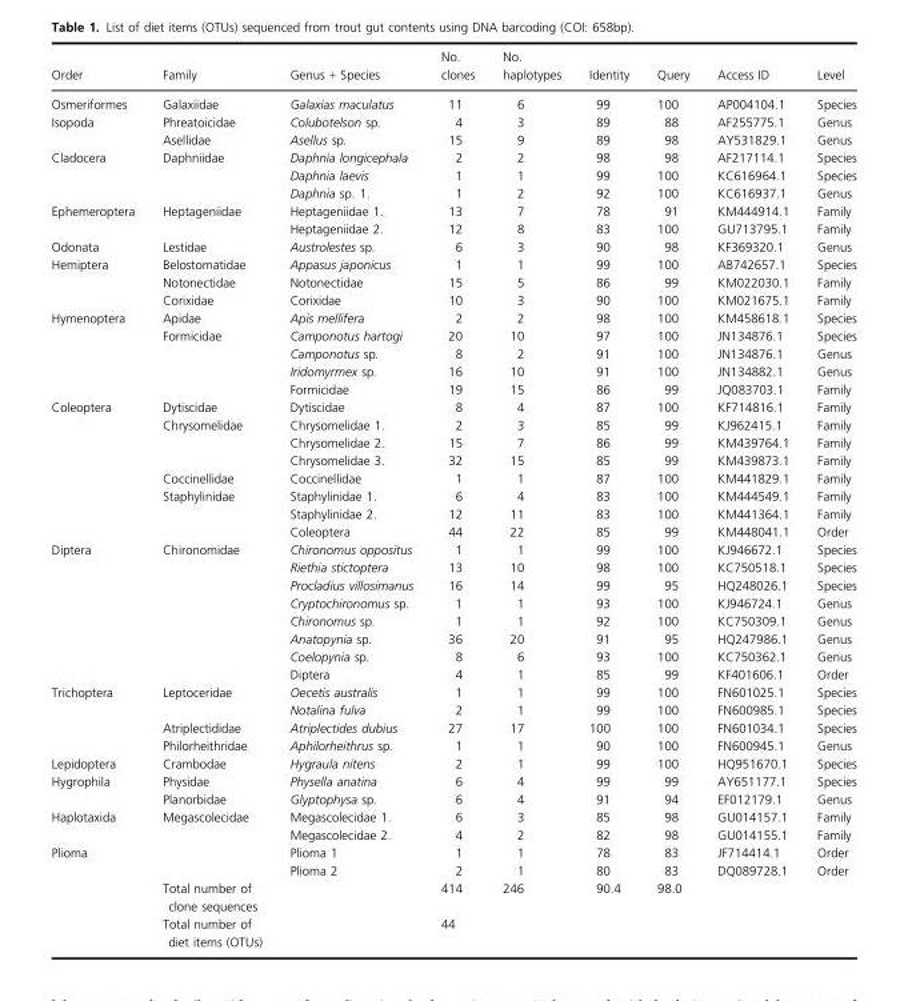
<table><thead><tr><td>Order</td><td>Family</td><td>Genus + Species</td><td>No. clones</td><td>No. haplotypes</td><td>Identity</td><td>Query</td><td>Access ID</td><td>Level</td></tr></thead><tbody><tr><td>Osmeriformes</td><td>Galaxiidae</td><td>Galaxias maculatus</td><td>11</td><td>6</td><td>99</td><td>100</td><td>AP004104.1</td><td>Species</td></tr><tr><td rowspan="2">Isopoda</td><td>Phreatoicidae</td><td>Colubotelson sp.</td><td>4</td><td>3</td><td>89</td><td>88</td><td>AF255775.1</td><td>Genus</td></tr><tr><td>Asellidae</td><td>Asellus sp.</td><td>15</td><td>9</td><td>89</td><td>98</td><td>AY531829.1</td><td>Genus</td></tr><tr><td rowspan="3">Cladocera</td><td rowspan="3">Daphniidae</td><td>Daphnia longicephala</td><td>2</td><td>2</td><td>98</td><td>98</td><td>AF217114.1</td><td>Species</td></tr><tr><td>Daphnia laevis</td><td>1</td><td>1</td><td>99</td><td>100</td><td>KC616964.1</td><td>Species</td></tr><tr><td>Daphnia sp. 1.</td><td>1</td><td>2</td><td>92</td><td>100</td><td>KC616937.1</td><td>Genus</td></tr><tr><td rowspan="2">Ephemeroptera</td><td rowspan="2">Heptageniidae</td><td>Heptageniidae 1.</td><td>13</td><td>7</td><td>78</td><td>91</td><td>KM444914.1</td><td>Family</td></tr><tr><td>Heptageniidae 2.</td><td>12</td><td>8</td><td>83</td><td>100</td><td>GU713795.1</td><td>Family</td></tr><tr><td>Odonata</td><td>Lestidae</td><td>Austrolestes sp.</td><td>6</td><td>3</td><td>90</td><td>98</td><td>KF369320.1</td><td>Genus</td></tr><tr><td rowspan="3">Hemiptera</td><td>Belostomatidae</td><td>Appasus japonicus</td><td>1</td><td>1</td><td>99</td><td>100</td><td>AB742657.1</td><td>Species</td></tr><tr><td>Notonectidae</td><td>Notonectidae</td><td>15</td><td>5</td><td>86</td><td>99</td><td>KM022030.1</td><td>Family</td></tr><tr><td>Corixidae</td><td>Corixidae</td><td>10</td><td>3</td><td>90</td><td>100</td><td>KM021675.1</td><td>Family</td></tr><tr><td rowspan="5">Hymenoptera</td><td>Apidae</td><td>Apis mellifera</td><td>2</td><td>2</td><td>98</td><td>100</td><td>KM458618.1</td><td>Species</td></tr><tr><td rowspan="4">Formicidae</td><td>Camponotus hartogi</td><td>20</td><td>10</td><td>97</td><td>100</td><td>JN134876.1</td><td>Species</td></tr><tr><td>Camponotus sp.</td><td>8</td><td>2</td><td>91</td><td>100</td><td>JN134876.1</td><td>Genus</td></tr><tr><td>Iridomyrmex sp.</td><td>16</td><td>10</td><td>91</td><td>100</td><td>JN134882.1</td><td>Genus</td></tr><tr><td>Formicidae</td><td>19</td><td>15</td><td>86</td><td>99</td><td>JQ083703.1</td><td>Family</td></tr><tr><td rowspan="8">Coleoptera</td><td>Dytiscidae</td><td>Dytiscidae</td><td>8</td><td>4</td><td>87</td><td>100</td><td>KF714816.1</td><td>Family</td></tr><tr><td rowspan="3">Chrysomelidae</td><td>Chrysomelidae 1.</td><td>2</td><td>3</td><td>85</td><td>99</td><td>KJ962415.1</td><td>Family</td></tr><tr><td>Chrysomelidae 2.</td><td>15</td><td>7</td><td>86</td><td>99</td><td>KM439764.1</td><td>Family</td></tr><tr><td>Chrysomelidae 3.</td><td>32</td><td>15</td><td>85</td><td>99</td><td>KM439873.1</td><td>Family</td></tr><tr><td>Coccinellidae</td><td>Coccinellidae</td><td>1</td><td>1</td><td>87</td><td>100</td><td>KM441829.1</td><td>Family</td></tr><tr><td rowspan="3">Staphylinidae</td><td>Staphylinidae 1.</td><td>6</td><td>4</td><td>83</td><td>100</td><td>KM444549.1</td><td>Family</td></tr><tr><td>Staphylinidae 2.</td><td>12</td><td>11</td><td>83</td><td>100</td><td>KM441364.1</td><td>Family</td></tr><tr><td>Coleoptera</td><td>44</td><td>22</td><td>85</td><td>99</td><td>KM448041.1</td><td>Order</td></tr><tr><td rowspan="8">Diptera</td><td rowspan="8">Chironomidae</td><td>Chironomus oppositus</td><td>1</td><td>1</td><td>99</td><td>100</td><td>KJ946672.1</td><td>Species</td></tr><tr><td>Riethia stictoptera</td><td>13</td><td>10</td><td>98</td><td>100</td><td>KC750518.1</td><td>Species</td></tr><tr><td>Procladius villosimanus</td><td>16</td><td>14</td><td>99</td><td>95</td><td>HQ248026.1</td><td>Species</td></tr><tr><td>Cryptochironomus sp.</td><td>1</td><td>1</td><td>93</td><td>100</td><td>KJ946724.1</td><td>Genus</td></tr><tr><td>Chironomus sp.</td><td>1</td><td>1</td><td>92</td><td>100</td><td>KC750309.1</td><td>Genus</td></tr><tr><td>Anatopynia sp.</td><td>36</td><td>20</td><td>91</td><td>95</td><td>HQ247986.1</td><td>Genus</td></tr><tr><td>Coelopynia sp.</td><td>8</td><td>6</td><td>93</td><td>100</td><td>KC750362.1</td><td>Genus</td></tr><tr><td>Diptera</td><td>4</td><td>1</td><td>85</td><td>99</td><td>KF401606.1</td><td>Order</td></tr><tr><td rowspan="4">Trichoptera</td><td rowspan="2">Leptoceridae</td><td>Oecetis australis</td><td>1</td><td>1</td><td>99</td><td>100</td><td>FN601025.1</td><td>Species</td></tr><tr><td>Notalina fulva</td><td>2</td><td>1</td><td>99</td><td>100</td><td>FN600985.1</td><td>Species</td></tr><tr><td>Atriplectididae</td><td>Atriplectides dubius</td><td>27</td><td>17</td><td>100</td><td>100</td><td>FN601034.1</td><td>Species</td></tr><tr><td>Philorheithridae</td><td>Aphilorheithrus sp.</td><td>1</td><td>1</td><td>90</td><td>100</td><td>FN600945.1</td><td>Genus</td></tr><tr><td>Lepidoptera</td><td>Crambodae</td><td>Hygraula nitens</td><td>2</td><td>1</td><td>99</td><td>100</td><td>HQ951670.1</td><td>Species</td></tr><tr><td rowspan="2">Hygrophila</td><td>Physidae</td><td>Physella anatina</td><td>6</td><td>4</td><td>99</td><td>99</td><td>AY651177.1</td><td>Species</td></tr><tr><td>Planorbidae</td><td>Glyptophysa sp.</td><td>6</td><td>4</td><td>91</td><td>94</td><td>EF012179.1</td><td>Genus</td></tr><tr><td rowspan="2">Haplotaxida</td><td rowspan="4">Megascolecidae</td><td>Megascolecidae 1.</td><td>6</td><td>3</td><td>85</td><td>98</td><td>GU014157.1</td><td>Family</td></tr><tr><td>Megascolecidae 2.</td><td>4</td><td>2</td><td>82</td><td>98</td><td>GU014155.1</td><td>Family</td></tr><tr><td rowspan="4">Plioma</td><td>Plioma 1</td><td>1</td><td>1</td><td>78</td><td>83</td><td>JF714414.1</td><td>Order</td></tr><tr><td>Plioma 2</td><td>2</td><td>1</td><td>80</td><td>83</td><td>DQ089728.1</td><td>Order</td></tr><tr><td>Total number of clone sequences</td><td></td><td>414</td><td>246</td><td>90.4</td><td>98.0</td><td></td><td></td></tr><tr><td>Total number of diet items (OTUs)</td><td></td><td>44</td><td></td><td></td><td></td><td></td><td></td></tr></tbody></table>